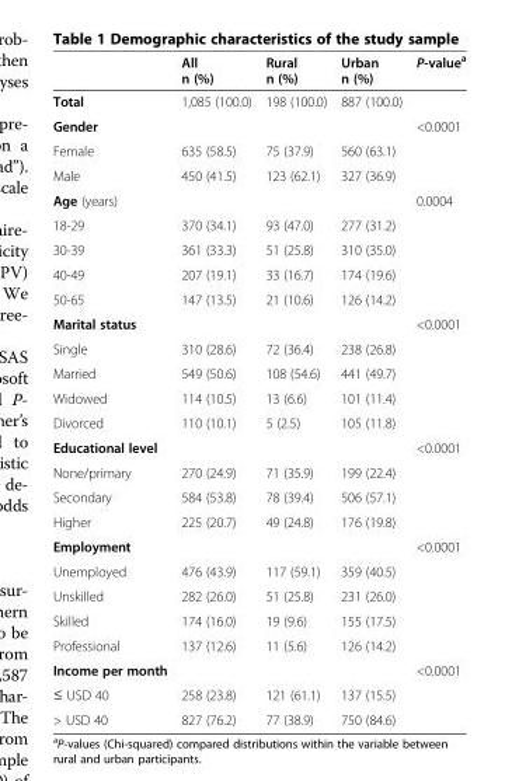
<table><thead><tr><td></td><td>All n (%)</td><td>Rural n (%)</td><td>Urban n (%)</td><td>P-value<sup>a</sup></td></tr></thead><tbody><tr><td>Total</td><td>1,085 (100.0)</td><td>198 (100.0)</td><td>887 (100.0)</td><td></td></tr><tr><td>Gender</td><td></td><td></td><td></td><td>&lt;0.0001</td></tr><tr><td>Female</td><td>635 (58.5)</td><td>75 (37.9)</td><td>560 (63.1)</td><td rowspan="2"></td></tr><tr><td>Male</td><td>450 (41.5)</td><td>123 (62.1)</td><td>327 (36.9)</td></tr><tr><td>Age (years)</td><td></td><td></td><td></td><td>0.0004</td></tr><tr><td>18-29</td><td>370 (34.1)</td><td>93 (47.0)</td><td>277 (31.2)</td><td rowspan="4"></td></tr><tr><td>30-39</td><td>361 (33.3)</td><td>51 (25.8)</td><td>310 (35.0)</td></tr><tr><td>40-49</td><td>207 (19.1)</td><td>33 (16.7)</td><td>174 (19.6)</td></tr><tr><td>50-65</td><td>147 (13.5)</td><td>21 (10.6)</td><td>126 (14.2)</td></tr><tr><td>Marital status</td><td></td><td></td><td></td><td>&lt;0.0001</td></tr><tr><td>Single</td><td>310 (28.6)</td><td>72 (36.4)</td><td>238 (26.8)</td><td rowspan="4"></td></tr><tr><td>Married</td><td>549 (50.6)</td><td>108 (54.6)</td><td>441 (49.7)</td></tr><tr><td>Widowed</td><td>114 (10.5)</td><td>13 (6.6)</td><td>101 (11.4)</td></tr><tr><td>Divorced</td><td>110 (10.1)</td><td>5 (2.5)</td><td>105 (11.8)</td></tr><tr><td>Educational level</td><td></td><td></td><td></td><td>&lt;0.0001</td></tr><tr><td>None/primary</td><td>270 (24.9)</td><td>71 (35.9)</td><td>199 (22.4)</td><td rowspan="3"></td></tr><tr><td>Secondary</td><td>584 (53.8)</td><td>78 (39.4)</td><td>506 (57.1)</td></tr><tr><td>Higher</td><td>225 (20.7)</td><td>49 (24.8)</td><td>176 (19.8)</td></tr><tr><td>Employment</td><td></td><td></td><td></td><td>&lt;0.0001</td></tr><tr><td>Unemployed</td><td>476 (43.9)</td><td>117 (59.1)</td><td>359 (40.5)</td><td rowspan="4"></td></tr><tr><td>Unskilled</td><td>282 (26.0)</td><td>51 (25.8)</td><td>231 (26.0)</td></tr><tr><td>Skilled</td><td>174 (16.0)</td><td>19 (9.6)</td><td>155 (17.5)</td></tr><tr><td>Professional</td><td>137 (12.6)</td><td>11 (5.6)</td><td>126 (14.2)</td></tr><tr><td>Income per month</td><td></td><td></td><td></td><td>&lt;0.0001</td></tr><tr><td>≤ USD 40</td><td>258 (23.8)</td><td>121 (61.1)</td><td>137 (15.5)</td><td rowspan="2"></td></tr><tr><td>&gt; USD 40</td><td>827 (76.2)</td><td>77 (38.9)</td><td>750 (84.6)</td></tr></tbody></table>